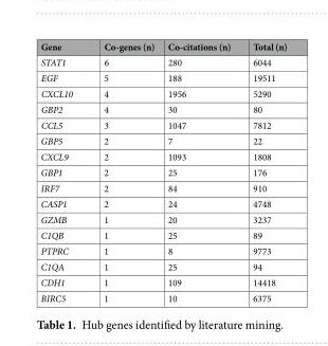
<table><thead><tr><td>Gene</td><td>Co-genes (n)</td><td>Co-citations (n)</td><td>Total (n)</td></tr></thead><tbody><tr><td>STAT1</td><td>6</td><td>280</td><td>6044</td></tr><tr><td>EGF</td><td>5</td><td>188</td><td>19511</td></tr><tr><td>CXCL10</td><td>4</td><td>1956</td><td>5290</td></tr><tr><td>GBP2</td><td>4</td><td>30</td><td>80</td></tr><tr><td>CCL5</td><td>3</td><td>1047</td><td>7812</td></tr><tr><td>GBP5</td><td>2</td><td>7</td><td>22</td></tr><tr><td>CXCL9</td><td>2</td><td>1093</td><td>1808</td></tr><tr><td>GBP1</td><td>2</td><td>25</td><td>176</td></tr><tr><td>IRF7</td><td>2</td><td>84</td><td>910</td></tr><tr><td>CASP1</td><td>2</td><td>24</td><td>4748</td></tr><tr><td>GZMB</td><td>1</td><td>20</td><td>3237</td></tr><tr><td>C1QB</td><td>1</td><td>25</td><td>89</td></tr><tr><td>PTPRC</td><td>1</td><td>8</td><td>9773</td></tr><tr><td>C1QA</td><td>1</td><td>25</td><td>94</td></tr><tr><td>CDH1</td><td>1</td><td>109</td><td>14418</td></tr><tr><td>BIRC5</td><td>1</td><td>10</td><td>6375</td></tr></tbody></table>